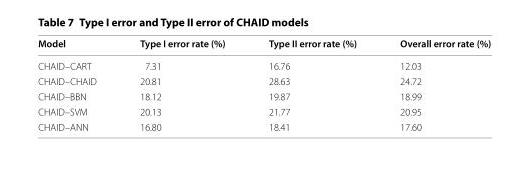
<table><thead><tr><td>Model</td><td>Type I error rate (%)</td><td>Type II error rate (%)</td><td>Overall error rate (%)</td></tr></thead><tbody><tr><td>CHAID–CART</td><td>7.31</td><td>16.76</td><td>12.03</td></tr><tr><td>CHAID–CHAID</td><td>20.81</td><td>28.63</td><td>24.72</td></tr><tr><td>CHAID–BBN</td><td>18.12</td><td>19.87</td><td>18.99</td></tr><tr><td>CHAID–SVM</td><td>20.13</td><td>21.77</td><td>20.95</td></tr><tr><td>CHAID–ANN</td><td>16.80</td><td>18.41</td><td>17.60</td></tr></tbody></table>